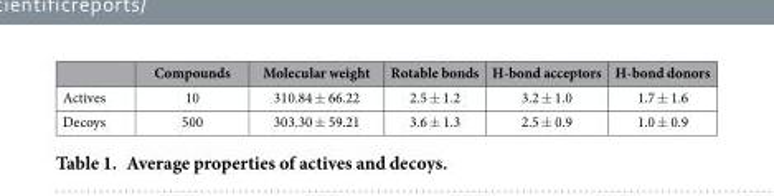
<table><thead><tr><td></td><td>Compounds</td><td>Molecular weight</td><td>Rotable bonds</td><td>H-bond acceptors</td><td>H-bond donors</td></tr></thead><tbody><tr><td>Actives</td><td>10</td><td>310.84 ± 66.22</td><td>2.5 ± 1.2</td><td>3.2 ± 1.0</td><td>1.7 ± 1.6</td></tr><tr><td>Decoys</td><td>500</td><td>303.30 ± 59.21</td><td>3.6 ± 1.3</td><td>2.5 ± 0.9</td><td>1.0 ± 0.9</td></tr></tbody></table>